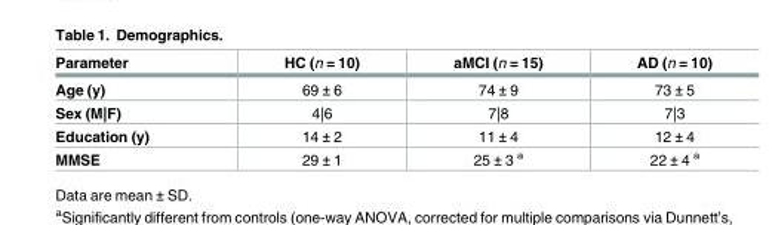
<table><thead><tr><td>Parameter</td><td>HC (n = 10)</td><td>aMCI (n = 15)</td><td>AD (n = 10)</td></tr></thead><tbody><tr><td>Age (y)</td><td>69 ± 6</td><td>74 ± 9</td><td>73 ± 5</td></tr><tr><td>Sex (M|F)</td><td>4|6</td><td>7|8</td><td>7|3</td></tr><tr><td>Education (y)</td><td>14 ± 2</td><td>11 ± 4</td><td>12 ± 4</td></tr><tr><td>MMSE</td><td>29 ± 1</td><td>25 ± 3 <sup>a</sup></td><td>22 ± 4 <sup>a</sup></td></tr></tbody></table>